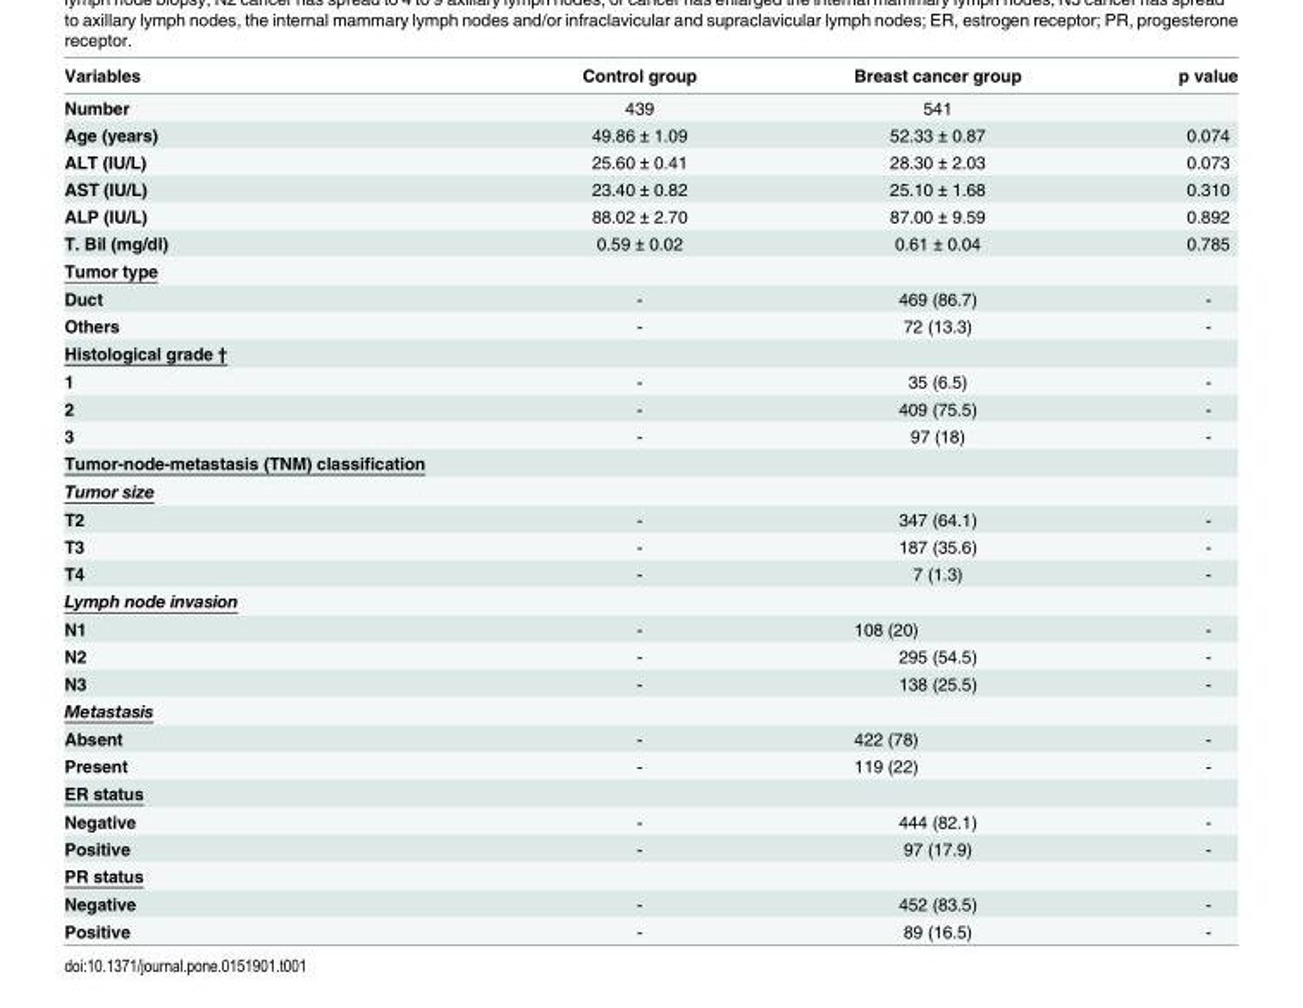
<table><thead><tr><td>Variables</td><td>Control group</td><td>Breast cancer group</td><td>p value</td></tr></thead><tbody><tr><td>Number</td><td>439</td><td>541</td><td></td></tr><tr><td>Age (years)</td><td>49.86 ± 1.09</td><td>52.33 ± 0.87</td><td>0.074</td></tr><tr><td>ALT (IU/L)</td><td>25.60 ± 0.41</td><td>28.30 ± 2.03</td><td>0.073</td></tr><tr><td>AST (IU/L)</td><td>23.40 ± 0.82</td><td>25.10 ± 1.68</td><td>0.310</td></tr><tr><td>ALP (IU/L)</td><td>88.02 ± 2.70</td><td>87.00 ± 9.59</td><td>0.892</td></tr><tr><td>T. Bil (mg/dl)</td><td>0.59 ± 0.02</td><td>0.61 ± 0.04</td><td>0.785</td></tr><tr><td colspan="4">Tumor type</td></tr><tr><td>Duct</td><td>-</td><td>469 (86.7)</td><td>-</td></tr><tr><td>Others</td><td>-</td><td>72 (13.3)</td><td>-</td></tr><tr><td colspan="4">Histological grade †</td></tr><tr><td>1</td><td>-</td><td>35 (6.5)</td><td>-</td></tr><tr><td>2</td><td>-</td><td>409 (75.5)</td><td>-</td></tr><tr><td>3</td><td>-</td><td>97 (18)</td><td>-</td></tr><tr><td colspan="4">Tumor-node-metastasis (TNM) classification</td></tr><tr><td colspan="4">Tumor size</td></tr><tr><td>T2</td><td>-</td><td>347 (64.1)</td><td>-</td></tr><tr><td>T3</td><td>-</td><td>187 (35.6)</td><td>-</td></tr><tr><td>T4</td><td>-</td><td>7 (1.3)</td><td>-</td></tr><tr><td colspan="4">Lymph node invasion</td></tr><tr><td>N1</td><td>-</td><td>108 (20)</td><td>-</td></tr><tr><td>N2</td><td>-</td><td>295 (54.5)</td><td>-</td></tr><tr><td>N3</td><td>-</td><td>138 (25.5)</td><td>-</td></tr><tr><td colspan="4">Metastasis</td></tr><tr><td>Absent</td><td>-</td><td>422 (78)</td><td>-</td></tr><tr><td>Present</td><td>-</td><td>119 (22)</td><td>-</td></tr><tr><td colspan="4">ER status</td></tr><tr><td>Negative</td><td>-</td><td>444 (82.1)</td><td>-</td></tr><tr><td>Positive</td><td>-</td><td>97 (17.9)</td><td>-</td></tr><tr><td colspan="4">PR status</td></tr><tr><td>Negative</td><td>-</td><td>452 (83.5)</td><td>-</td></tr><tr><td>Positive</td><td>-</td><td>89 (16.5)</td><td>-</td></tr></tbody></table>